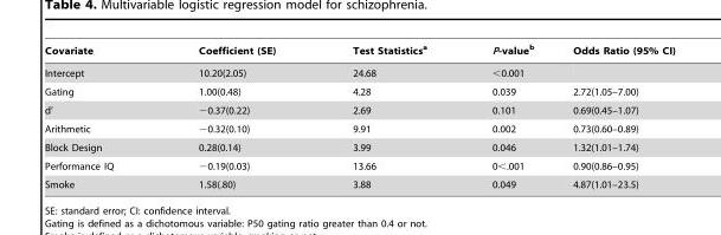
<table><thead><tr><td>Covariate</td><td>Coefficient (SE)</td><td>Test Statistics<sup>a</sup></td><td>P-value<sup>b</sup></td><td>Odds Ratio (95% CI)</td></tr></thead><tbody><tr><td>Intercept</td><td>10.20(2.05)</td><td>24.68</td><td>&lt;0.001</td><td></td></tr><tr><td>Gating</td><td>1.00(0.48)</td><td>4.28</td><td>0.039</td><td>2.72(1.05–7.00)</td></tr><tr><td>d’</td><td>−0.37(0.22)</td><td>2.69</td><td>0.101</td><td>0.69(0.45–1.07)</td></tr><tr><td>Arithmetic</td><td>−0.32(0.10)</td><td>9.91</td><td>0.002</td><td>0.73(0.60–0.89)</td></tr><tr><td>Block Design</td><td>0.28(0.14)</td><td>3.99</td><td>0.046</td><td>1.32(1.01–1.74)</td></tr><tr><td>Performance IQ</td><td>−0.19(0.03)</td><td>13.66</td><td>0&lt;.001</td><td>0.90(0.86–0.95)</td></tr><tr><td>Smoke</td><td>1.58(.80)</td><td>3.88</td><td>0.049</td><td>4.87(1.01–23.5)</td></tr></tbody></table>